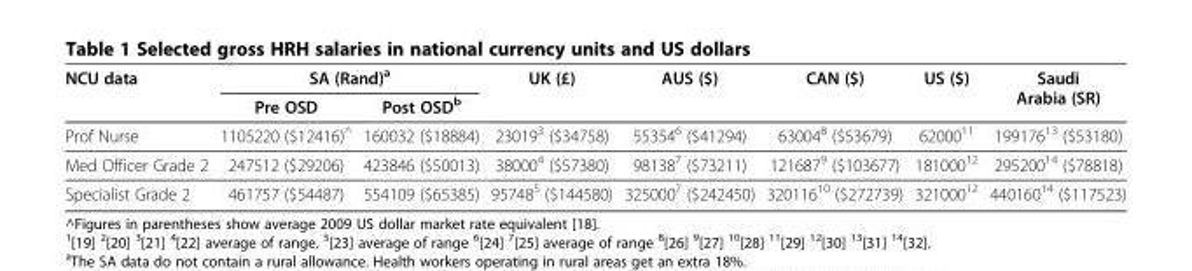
<table><thead><tr><td rowspan="2">NCU data</td><td colspan="2">SA (Rand)<sup>a</sup></td><td rowspan="2">UK (£)</td><td rowspan="2">AUS ($)</td><td rowspan="2">CAN ($)</td><td rowspan="2">US ($)</td><td rowspan="2">Saudi Arabia (SR)</td></tr><tr><td>Pre OSD</td><td>Post OSD<sup>b</sup></td></tr></thead><tbody><tr><td>Prof Nurse</td><td>1105220 ($12416)<sup>^</sup></td><td>160032 ($18884)</td><td>23019<sup>3</sup> ($34758)</td><td>55354<sup>6</sup> ($41294)</td><td>63004<sup>8</sup> ($53679)</td><td>62000<sup>11</sup></td><td>199176<sup>13</sup> ($53180)</td></tr><tr><td>Med Officer Grade 2</td><td>247512 ($29206)</td><td>423846 ($50013)</td><td>38000<sup>4</sup> ($57380)</td><td>98138<sup>7</sup> ($73211)</td><td>121687<sup>9</sup> ($103677)</td><td>181000<sup>12</sup></td><td>295200<sup>14</sup> ($78818)</td></tr><tr><td>Specialist Grade 2</td><td>461757 ($54487)</td><td>554109 ($65385)</td><td>95748<sup>5</sup> ($144580)</td><td>325000<sup>7</sup> ($242450)</td><td>320116<sup>10</sup> ($272739)</td><td>321000<sup>12</sup></td><td>440160<sup>14</sup> ($117523)</td></tr></tbody></table>